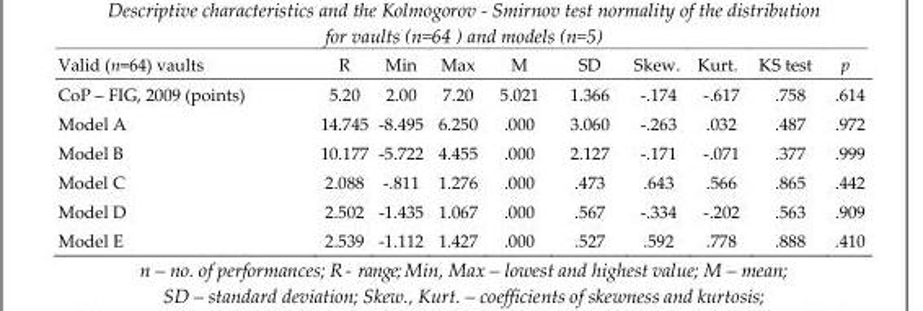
<table><thead><tr><td>Valid (n=64) vaults</td><td>R</td><td>Min</td><td>Max</td><td>M</td><td>SD</td><td>Skew.</td><td>Kurt.</td><td>KS test</td><td>p</td></tr></thead><tbody><tr><td>CoP – FIG, 2009 (points)</td><td>5.20</td><td>2.00</td><td>7.20</td><td>5.021</td><td>1.366</td><td>-.174</td><td>-.617</td><td>.758</td><td>.614</td></tr><tr><td>Model A</td><td>14.745</td><td>-8.495</td><td>6.250</td><td>.000</td><td>3.060</td><td>-.263</td><td>.032</td><td>.487</td><td>.972</td></tr><tr><td>Model B</td><td>10.177</td><td>-5.722</td><td>4.455</td><td>.000</td><td>2.127</td><td>-.171</td><td>-.071</td><td>.377</td><td>.999</td></tr><tr><td>Model C</td><td>2.088</td><td>-.811</td><td>1.276</td><td>.000</td><td>.473</td><td>.643</td><td>.566</td><td>.865</td><td>.442</td></tr><tr><td>Model D</td><td>2.502</td><td>-1.435</td><td>1.067</td><td>.000</td><td>.567</td><td>-.334</td><td>-.202</td><td>.563</td><td>.909</td></tr><tr><td>Model E</td><td>2.539</td><td>-1.112</td><td>1.427</td><td>.000</td><td>.527</td><td>.592</td><td>.778</td><td>.888</td><td>.410</td></tr></tbody></table>